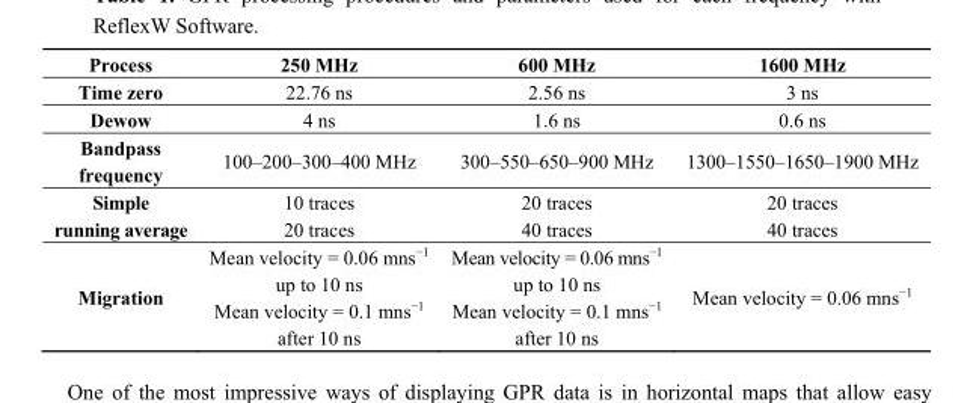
<table><thead><tr><td>Process</td><td>250 MHz</td><td>600 MHz</td><td>1600 MHz</td></tr></thead><tbody><tr><td>Time zero</td><td>22.76 ns</td><td>2.56 ns</td><td>3 ns</td></tr><tr><td>Dewow</td><td>4 ns</td><td>1.6 ns</td><td>0.6 ns</td></tr><tr><td>Bandpass frequency</td><td>100–200–300–400 MHz</td><td>300–550–650–900 MHz</td><td>1300–1550–1650–1900 MHz</td></tr><tr><td>Simple running average</td><td>10 traces 20 traces</td><td>20 traces 40 traces</td><td>20 traces 40 traces</td></tr><tr><td>Migration</td><td>Mean velocity = 0.06 mns<sup>−1</sup> up to 10 ns Mean velocity = 0.1 mns<sup>−1</sup> after 10 ns</td><td>Mean velocity = 0.06 mns<sup>−1</sup> up to 10 ns Mean velocity = 0.1 mns<sup>−1</sup> after 10 ns</td><td>Mean velocity = 0.06 mns<sup>−1</sup></td></tr></tbody></table>